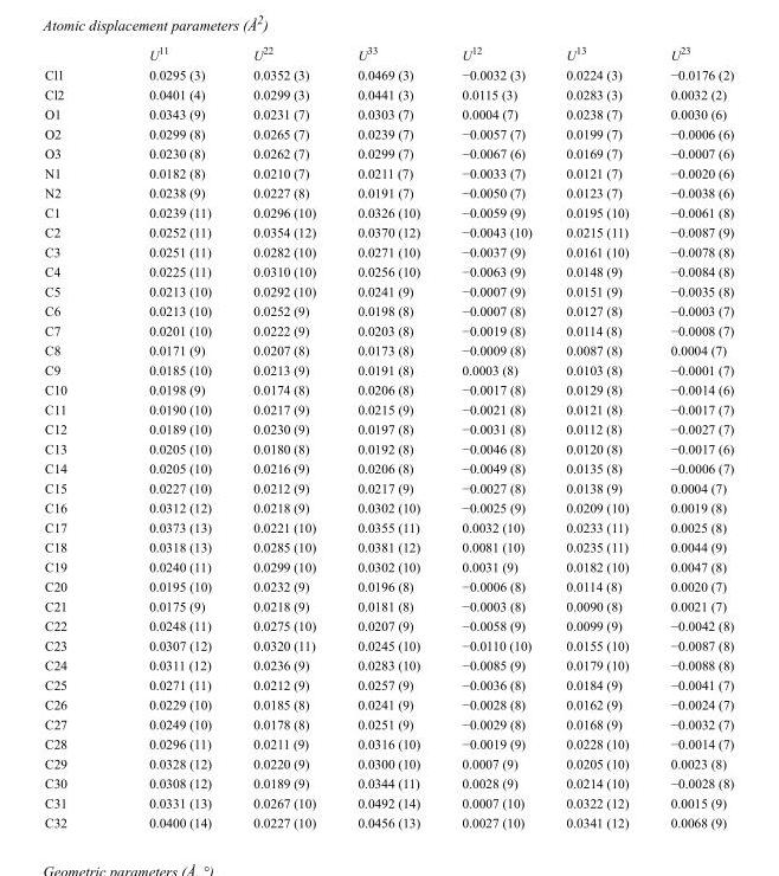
<table><thead><tr><td></td><td>U<sup>11</sup></td><td>U<sup>22</sup></td><td>U<sup>33</sup></td><td>U<sup>12</sup></td><td>U<sup>13</sup></td><td>U<sup>23</sup></td></tr></thead><tbody><tr><td>Cl1</td><td>0.0295 (3)</td><td>0.0352 (3)</td><td>0.0469 (3)</td><td>−0.0032 (3)</td><td>0.0224 (3)</td><td>−0.0176 (2)</td></tr><tr><td>Cl2</td><td>0.0401 (4)</td><td>0.0299 (3)</td><td>0.0441 (3)</td><td>0.0115 (3)</td><td>0.0283 (3)</td><td>0.0032 (2)</td></tr><tr><td>O1</td><td>0.0343 (9)</td><td>0.0231 (7)</td><td>0.0303 (7)</td><td>0.0004 (7)</td><td>0.0238 (7)</td><td>0.0030 (6)</td></tr><tr><td>O2</td><td>0.0299 (8)</td><td>0.0265 (7)</td><td>0.0239 (7)</td><td>−0.0057 (7)</td><td>0.0199 (7)</td><td>−0.0006 (6)</td></tr><tr><td>O3</td><td>0.0230 (8)</td><td>0.0262 (7)</td><td>0.0299 (7)</td><td>−0.0067 (6)</td><td>0.0169 (7)</td><td>−0.0007 (6)</td></tr><tr><td>N1</td><td>0.0182 (8)</td><td>0.0210 (7)</td><td>0.0211 (7)</td><td>−0.0033 (7)</td><td>0.0121 (7)</td><td>−0.0020 (6)</td></tr><tr><td>N2</td><td>0.0238 (9)</td><td>0.0227 (8)</td><td>0.0191 (7)</td><td>−0.0050 (7)</td><td>0.0123 (7)</td><td>−0.0038 (6)</td></tr><tr><td>C1</td><td>0.0239 (11)</td><td>0.0296 (10)</td><td>0.0326 (10)</td><td>−0.0059 (9)</td><td>0.0195 (10)</td><td>−0.0061 (8)</td></tr><tr><td>C2</td><td>0.0252 (11)</td><td>0.0354 (12)</td><td>0.0370 (12)</td><td>−0.0043 (10)</td><td>0.0215 (11)</td><td>−0.0087 (9)</td></tr><tr><td>C3</td><td>0.0251 (11)</td><td>0.0282 (10)</td><td>0.0271 (10)</td><td>−0.0037 (9)</td><td>0.0161 (10)</td><td>−0.0078 (8)</td></tr><tr><td>C4</td><td>0.0225 (11)</td><td>0.0310 (10)</td><td>0.0256 (10)</td><td>−0.0063 (9)</td><td>0.0148 (9)</td><td>−0.0084 (8)</td></tr><tr><td>C5</td><td>0.0213 (10)</td><td>0.0292 (10)</td><td>0.0241 (9)</td><td>−0.0007 (9)</td><td>0.0151 (9)</td><td>−0.0035 (8)</td></tr><tr><td>C6</td><td>0.0213 (10)</td><td>0.0252 (9)</td><td>0.0198 (8)</td><td>−0.0007 (8)</td><td>0.0127 (8)</td><td>−0.0003 (7)</td></tr><tr><td>C7</td><td>0.0201 (10)</td><td>0.0222 (9)</td><td>0.0203 (8)</td><td>−0.0019 (8)</td><td>0.0114 (8)</td><td>−0.0008 (7)</td></tr><tr><td>C8</td><td>0.0171 (9)</td><td>0.0207 (8)</td><td>0.0173 (8)</td><td>−0.0009 (8)</td><td>0.0087 (8)</td><td>0.0004 (7)</td></tr><tr><td>C9</td><td>0.0185 (10)</td><td>0.0213 (9)</td><td>0.0191 (8)</td><td>0.0003 (8)</td><td>0.0103 (8)</td><td>−0.0001 (7)</td></tr><tr><td>C10</td><td>0.0198 (9)</td><td>0.0174 (8)</td><td>0.0206 (8)</td><td>−0.0017 (8)</td><td>0.0129 (8)</td><td>−0.0014 (6)</td></tr><tr><td>C11</td><td>0.0190 (10)</td><td>0.0217 (9)</td><td>0.0215 (9)</td><td>−0.0021 (8)</td><td>0.0121 (8)</td><td>−0.0017 (7)</td></tr><tr><td>C12</td><td>0.0189 (10)</td><td>0.0230 (9)</td><td>0.0197 (8)</td><td>−0.0031 (8)</td><td>0.0112 (8)</td><td>−0.0027 (7)</td></tr><tr><td>C13</td><td>0.0205 (10)</td><td>0.0180 (8)</td><td>0.0192 (8)</td><td>−0.0046 (8)</td><td>0.0120 (8)</td><td>−0.0017 (6)</td></tr><tr><td>C14</td><td>0.0205 (10)</td><td>0.0216 (9)</td><td>0.0206 (8)</td><td>−0.0049 (8)</td><td>0.0135 (8)</td><td>−0.0006 (7)</td></tr><tr><td>C15</td><td>0.0227 (10)</td><td>0.0212 (9)</td><td>0.0217 (9)</td><td>−0.0027 (8)</td><td>0.0138 (9)</td><td>0.0004 (7)</td></tr><tr><td>C16</td><td>0.0312 (12)</td><td>0.0218 (9)</td><td>0.0302 (10)</td><td>−0.0025 (9)</td><td>0.0209 (10)</td><td>0.0019 (8)</td></tr><tr><td>C17</td><td>0.0373 (13)</td><td>0.0221 (10)</td><td>0.0355 (11)</td><td>0.0032 (10)</td><td>0.0233 (11)</td><td>0.0025 (8)</td></tr><tr><td>C18</td><td>0.0318 (13)</td><td>0.0285 (10)</td><td>0.0381 (12)</td><td>0.0081 (10)</td><td>0.0235 (11)</td><td>0.0044 (9)</td></tr><tr><td>C19</td><td>0.0240 (11)</td><td>0.0299 (10)</td><td>0.0302 (10)</td><td>0.0031 (9)</td><td>0.0182 (10)</td><td>0.0047 (8)</td></tr><tr><td>C20</td><td>0.0195 (10)</td><td>0.0232 (9)</td><td>0.0196 (8)</td><td>−0.0006 (8)</td><td>0.0114 (8)</td><td>0.0020 (7)</td></tr><tr><td>C21</td><td>0.0175 (9)</td><td>0.0218 (9)</td><td>0.0181 (8)</td><td>−0.0003 (8)</td><td>0.0090 (8)</td><td>0.0021 (7)</td></tr><tr><td>C22</td><td>0.0248 (11)</td><td>0.0275 (10)</td><td>0.0207 (9)</td><td>−0.0058 (9)</td><td>0.0099 (9)</td><td>−0.0042 (8)</td></tr><tr><td>C23</td><td>0.0307 (12)</td><td>0.0320 (11)</td><td>0.0245 (10)</td><td>−0.0110 (10)</td><td>0.0155 (10)</td><td>−0.0087 (8)</td></tr><tr><td>C24</td><td>0.0311 (12)</td><td>0.0236 (9)</td><td>0.0283 (10)</td><td>−0.0085 (9)</td><td>0.0179 (10)</td><td>−0.0088 (8)</td></tr><tr><td>C25</td><td>0.0271 (11)</td><td>0.0212 (9)</td><td>0.0257 (9)</td><td>−0.0036 (8)</td><td>0.0184 (9)</td><td>−0.0041 (7)</td></tr><tr><td>C26</td><td>0.0229 (10)</td><td>0.0185 (8)</td><td>0.0241 (9)</td><td>−0.0028 (8)</td><td>0.0162 (9)</td><td>−0.0024 (7)</td></tr><tr><td>C27</td><td>0.0249 (10)</td><td>0.0178 (8)</td><td>0.0251 (9)</td><td>−0.0029 (8)</td><td>0.0168 (9)</td><td>−0.0032 (7)</td></tr><tr><td>C28</td><td>0.0296 (11)</td><td>0.0211 (9)</td><td>0.0316 (10)</td><td>−0.0019 (9)</td><td>0.0228 (10)</td><td>−0.0014 (7)</td></tr><tr><td>C29</td><td>0.0328 (12)</td><td>0.0220 (9)</td><td>0.0300 (10)</td><td>0.0007 (9)</td><td>0.0205 (10)</td><td>0.0023 (8)</td></tr><tr><td>C30</td><td>0.0308 (12)</td><td>0.0189 (9)</td><td>0.0344 (11)</td><td>0.0028 (9)</td><td>0.0214 (10)</td><td>−0.0028 (8)</td></tr><tr><td>C31</td><td>0.0331 (13)</td><td>0.0267 (10)</td><td>0.0492 (14)</td><td>0.0007 (10)</td><td>0.0322 (12)</td><td>0.0015 (9)</td></tr><tr><td>C32</td><td>0.0400 (14)</td><td>0.0227 (10)</td><td>0.0456 (13)</td><td>0.0027 (10)</td><td>0.0341 (12)</td><td>0.0068 (9)</td></tr></tbody></table>